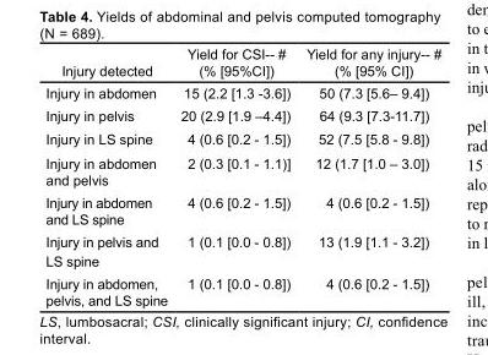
<table><thead><tr><td>Injury detected</td><td>Yield for CSI-- # (% [95%CI])</td><td>Yield for any injury-- # (% [95% CI])</td></tr></thead><tbody><tr><td>Injury in abdomen</td><td>15 (2.2 [1.3 -3.6])</td><td>50 (7.3 [5.6– 9.4])</td></tr><tr><td>Injury in pelvis</td><td>20 (2.9 [1.9 –4.4])</td><td>64 (9.3 [7.3-11.7])</td></tr><tr><td>Injury in LS spine</td><td>4 (0.6 [0.2 - 1.5])</td><td>52 (7.5 [5.8 - 9.8])</td></tr><tr><td>Injury in abdomen and pelvis</td><td>2 (0.3 [0.1 - 1.1)]</td><td>12 (1.7 [1.0 – 3.0])</td></tr><tr><td>Injury in abdomen and LS spine</td><td>4 (0.6 [0.2 - 1.5])</td><td>4 (0.6 [0.2 - 1.5])</td></tr><tr><td>Injury in pelvis and LS spine</td><td>1 (0.1 [0.0 - 0.8])</td><td>13 (1.9 [1.1 - 3.2])</td></tr><tr><td>Injury in abdomen, pelvis, and LS spine</td><td>1 (0.1 [0.0 - 0.8])</td><td>4 (0.6 [0.2 - 1.5])</td></tr></tbody></table>